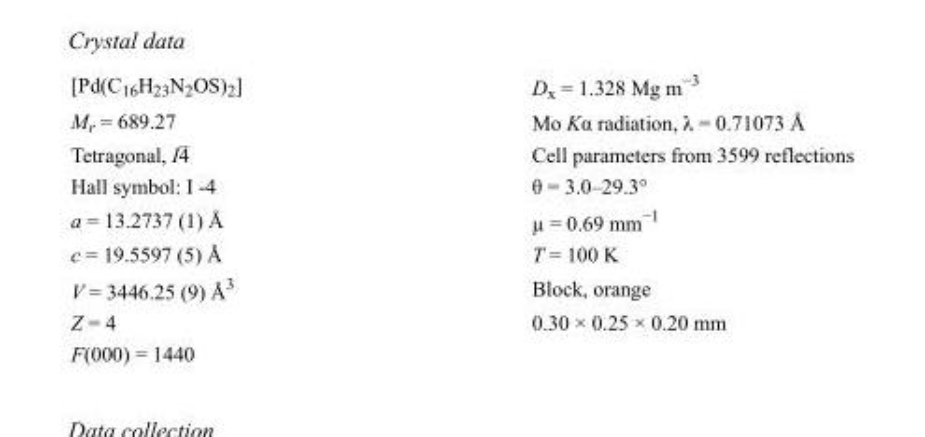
<table><tbody><tr><td>[Pd(C<sub>16</sub>H<sub>23</sub>N<sub>2</sub>OS)<sub>2</sub>]</td><td>D<sub>x</sub> = 1.328 Mg m<sup>−3</sup></td></tr><tr><td>M<sub>r</sub> = 689.27</td><td>Mo Kα radiation, λ = 0.71073 Å</td></tr><tr><td>Tetragonal, I4</td><td>Cell parameters from 3599 reflections</td></tr><tr><td>Hall symbol: I -4</td><td>θ = 3.0–29.3°</td></tr><tr><td>a = 13.2737 (1) Å</td><td>µ = 0.69 mm<sup>−1</sup></td></tr><tr><td>c = 19.5597 (5) Å</td><td>T = 100 K</td></tr><tr><td>V = 3446.25 (9) Å<sup>3</sup></td><td>Block, orange</td></tr><tr><td>Z = 4</td><td>0.30 × 0.25 × 0.20 mm</td></tr><tr><td>F(000) = 1440</td><td></td></tr></tbody></table>